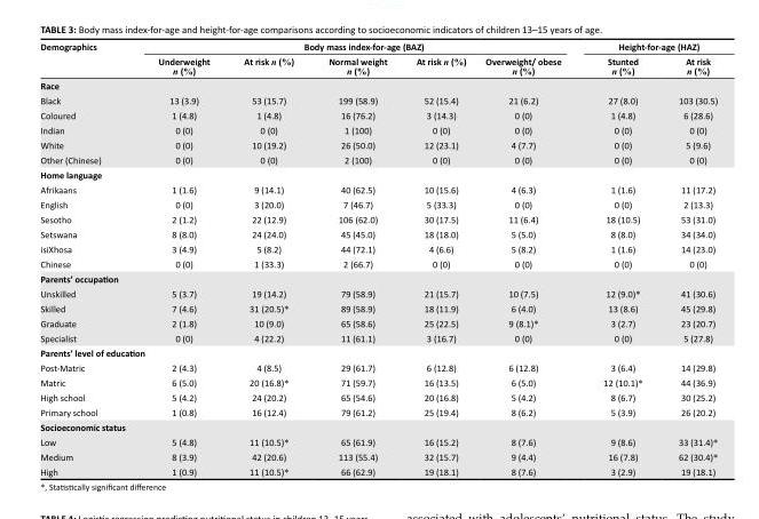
<table><thead><tr><td rowspan="2">Demographics</td><td colspan="5">Body mass index-for-age (BAZ)</td><td colspan="2">Height-for-age (HAZ)</td></tr><tr><td>Underweight n (%)</td><td>At risk n (%)</td><td>Normal weight n (%)</td><td>At risk n (%)</td><td>Overweight/ obese n (%)</td><td>Stunted n (%)</td><td>At risk n (%)</td></tr></thead><tbody><tr><td colspan="8">Race</td></tr><tr><td>Black</td><td>13 (3.9)</td><td>53 (15.7)</td><td>199 (58.9)</td><td>52 (15.4)</td><td>21 (6.2)</td><td>27 (8.0)</td><td>103 (30.5)</td></tr><tr><td>Coloured</td><td>1 (4.8)</td><td>1 (4.8)</td><td>16 (76.2)</td><td>3 (14.3)</td><td>0 (0)</td><td>1 (4.8)</td><td>6 (28.6)</td></tr><tr><td>Indian</td><td>0 (0)</td><td>0 (0)</td><td>1 (100)</td><td>0 (0)</td><td>0 (0)</td><td>0 (0)</td><td>0 (0)</td></tr><tr><td>White</td><td>0 (0)</td><td>10 (19.2)</td><td>26 (50.0)</td><td>12 (23.1)</td><td>4 (7.7)</td><td>0 (0)</td><td>5 (9.6)</td></tr><tr><td>Other (Chinese)</td><td>0 (0)</td><td>0 (0)</td><td>2 (100)</td><td>0 (0)</td><td>0 (0)</td><td>0 (0)</td><td>0 (0)</td></tr><tr><td colspan="8">Home language</td></tr><tr><td>Afrikaans</td><td>1 (1.6)</td><td>9 (14.1)</td><td>40 (62.5)</td><td>10 (15.6)</td><td>4 (6.3)</td><td>1 (1.6)</td><td>11 (17.2)</td></tr><tr><td>English</td><td>0 (0)</td><td>3 (20.0)</td><td>7 (46.7)</td><td>5 (33.3)</td><td>0 (0)</td><td>0 (0)</td><td>2 (13.3)</td></tr><tr><td>Sesotho</td><td>2 (1.2)</td><td>22 (12.9)</td><td>106 (62.0)</td><td>30 (17.5)</td><td>11 (6.4)</td><td>18 (10.5)</td><td>53 (31.0)</td></tr><tr><td>Setswana</td><td>8 (8.0)</td><td>24 (24.0)</td><td>45 (45.0)</td><td>18 (18.0)</td><td>5 (5.0)</td><td>8 (8.0)</td><td>34 (34.0)</td></tr><tr><td>isiXhosa</td><td>3 (4.9)</td><td>5 (8.2)</td><td>44 (72.1)</td><td>4 (6.6)</td><td>5 (8.2)</td><td>1 (1.6)</td><td>14 (23.0)</td></tr><tr><td>Chinese</td><td>0 (0)</td><td>1 (33.3)</td><td>2 (66.7)</td><td>0 (0)</td><td>0 (0)</td><td>0 (0)</td><td>0 (0)</td></tr><tr><td colspan="8">Parents’ occupation</td></tr><tr><td>Unskilled</td><td>5 (3.7)</td><td>19 (14.2)</td><td>79 (58.9)</td><td>21 (15.7)</td><td>10 (7.5)</td><td>12 (9.0)*</td><td>41 (30.6)</td></tr><tr><td>Skilled</td><td>7 (4.6)</td><td>31 (20.5)*</td><td>89 (58.9)</td><td>18 (11.9)</td><td>6 (4.0)</td><td>13 (8.6)</td><td>45 (29.8)</td></tr><tr><td>Graduate</td><td>2 (1.8)</td><td>10 (9.0)</td><td>65 (58.6)</td><td>25 (22.5)</td><td>9 (8.1)*</td><td>3 (2.7)</td><td>23 (20.7)</td></tr><tr><td>Specialist</td><td>0 (0)</td><td>4 (22.2)</td><td>11 (61.1)</td><td>3 (16.7)</td><td>0 (0)</td><td>0 (0)</td><td>5 (27.8)</td></tr><tr><td colspan="8">Parents’ level of education</td></tr><tr><td>Post-Matric</td><td>2 (4.3)</td><td>4 (8.5)</td><td>29 (61.7)</td><td>6 (12.8)</td><td>6 (12.8)</td><td>3 (6.4)</td><td>14 (29.8)</td></tr><tr><td>Matric</td><td>6 (5.0)</td><td>20 (16.8)*</td><td>71 (59.7)</td><td>16 (13.5)</td><td>6 (5.0)</td><td>12 (10.1)*</td><td>44 (36.9)</td></tr><tr><td>High school</td><td>5 (4.2)</td><td>24 (20.2)</td><td>65 (54.6)</td><td>20 (16.8)</td><td>5 (4.2)</td><td>8 (6.7)</td><td>30 (25.2)</td></tr><tr><td>Primary school</td><td>1 (0.8)</td><td>16 (12.4)</td><td>79 (61.2)</td><td>25 (19.4)</td><td>8 (6.2)</td><td>5 (3.9)</td><td>26 (20.2)</td></tr><tr><td colspan="8">Socioeconomic status</td></tr><tr><td>Low</td><td>5 (4.8)</td><td>11 (10.5)*</td><td>65 (61.9)</td><td>16 (15.2)</td><td>8 (7.6)</td><td>9 (8.6)</td><td>33 (31.4)*</td></tr><tr><td>Medium</td><td>8 (3.9)</td><td>42 (20.6)</td><td>113 (55.4)</td><td>32 (15.7)</td><td>9 (4.4)</td><td>16 (7.8)</td><td>62 (30.4)*</td></tr><tr><td>High</td><td>1 (0.9)</td><td>11 (10.5)*</td><td>66 (62.9)</td><td>19 (18.1)</td><td>8 (7.6)</td><td>3 (2.9)</td><td>19 (18.1)</td></tr></tbody></table>